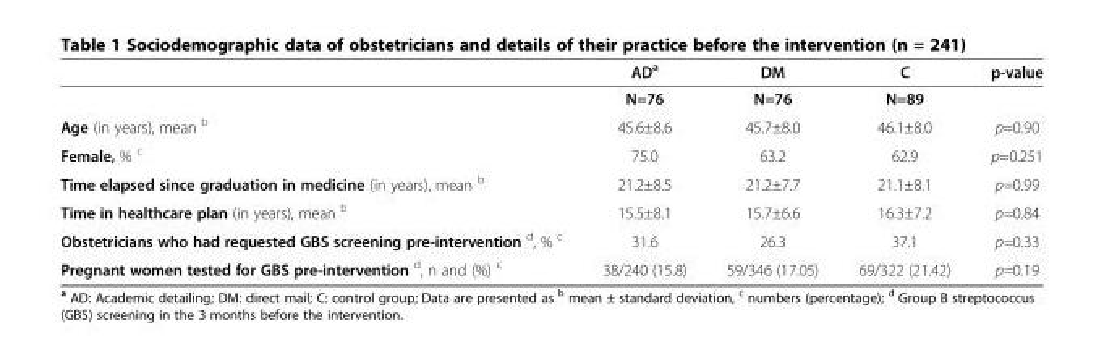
<table><thead><tr><td></td><td>AD<sup>a</sup></td><td>DM</td><td>C</td><td>p-value</td></tr></thead><tbody><tr><td></td><td>N=76</td><td>N=76</td><td>N=89</td><td></td></tr><tr><td>Age (in years), mean <sup>b</sup></td><td>45.6±8.6</td><td>45.7±8.0</td><td>46.1±8.0</td><td>p=0.90</td></tr><tr><td>Female, % <sup>c</sup></td><td>75.0</td><td>63.2</td><td>62.9</td><td>p=0.251</td></tr><tr><td>Time elapsed since graduation in medicine (in years), mean <sup>b</sup></td><td>21.2±8.5</td><td>21.2±7.7</td><td>21.1±8.1</td><td>p=0.99</td></tr><tr><td>Time in healthcare plan (in years), mean <sup>b</sup></td><td>15.5±8.1</td><td>15.7±6.6</td><td>16.3±7.2</td><td>p=0.84</td></tr><tr><td>Obstetricians who had requested GBS screening pre-intervention <sup>d</sup>, % <sup>c</sup></td><td>31.6</td><td>26.3</td><td>37.1</td><td>p=0.33</td></tr><tr><td>Pregnant women tested for GBS pre-intervention <sup>d</sup>, n and (%) <sup>c</sup></td><td>38/240 (15.8)</td><td>59/346 (17.05)</td><td>69/322 (21.42)</td><td>p=0.19</td></tr></tbody></table>